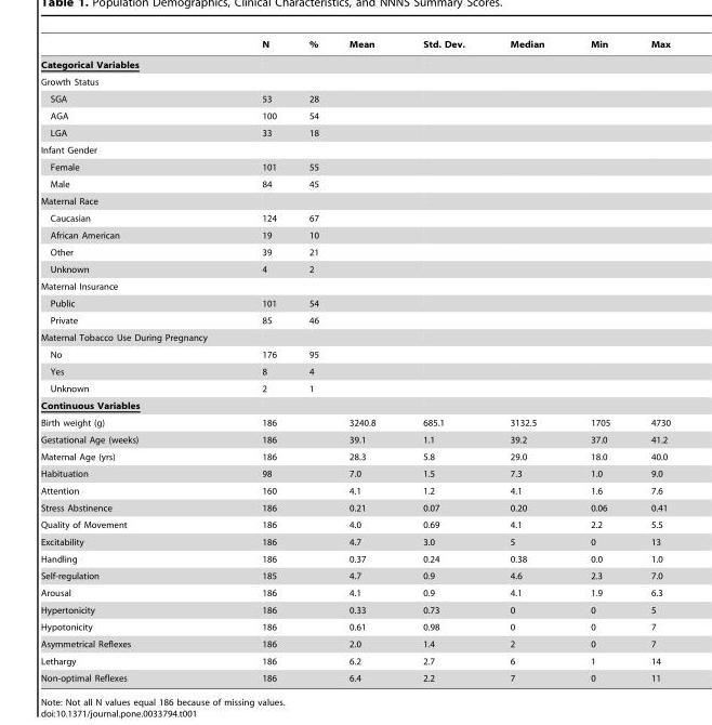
<table><thead><tr><td></td><td>N</td><td>%</td><td>Mean</td><td>Std. Dev.</td><td>Median</td><td>Min</td><td>Max</td></tr></thead><tbody><tr><td colspan="8">Categorical Variables</td></tr><tr><td colspan="8">Growth Status</td></tr><tr><td>SGA</td><td>53</td><td>28</td><td></td><td></td><td></td><td></td><td></td></tr><tr><td>AGA</td><td>100</td><td>54</td><td></td><td></td><td></td><td></td><td></td></tr><tr><td>LGA</td><td>33</td><td>18</td><td></td><td></td><td></td><td></td><td></td></tr><tr><td colspan="8">Infant Gender</td></tr><tr><td>Female</td><td>101</td><td>55</td><td></td><td></td><td></td><td></td><td></td></tr><tr><td>Male</td><td>84</td><td>45</td><td></td><td></td><td></td><td></td><td></td></tr><tr><td colspan="8">Maternal Race</td></tr><tr><td>Caucasian</td><td>124</td><td>67</td><td></td><td></td><td></td><td></td><td></td></tr><tr><td>African American</td><td>19</td><td>10</td><td></td><td></td><td></td><td></td><td></td></tr><tr><td>Other</td><td>39</td><td>21</td><td></td><td></td><td></td><td></td><td></td></tr><tr><td>Unknown</td><td>4</td><td>2</td><td></td><td></td><td></td><td></td><td></td></tr><tr><td colspan="8">Maternal Insurance</td></tr><tr><td>Public</td><td>101</td><td>54</td><td></td><td></td><td></td><td></td><td></td></tr><tr><td>Private</td><td>85</td><td>46</td><td></td><td></td><td></td><td></td><td></td></tr><tr><td colspan="8">Maternal Tobacco Use During Pregnancy</td></tr><tr><td>No</td><td>176</td><td>95</td><td></td><td></td><td></td><td></td><td></td></tr><tr><td>Yes</td><td>8</td><td>4</td><td></td><td></td><td></td><td></td><td></td></tr><tr><td>Unknown</td><td>2</td><td>1</td><td></td><td></td><td></td><td></td><td></td></tr><tr><td colspan="8">Continuous Variables</td></tr><tr><td>Birth weight (g)</td><td>186</td><td></td><td>3240.8</td><td>685.1</td><td>3132.5</td><td>1705</td><td>4730</td></tr><tr><td>Gestational Age (weeks)</td><td>186</td><td></td><td>39.1</td><td>1.1</td><td>39.2</td><td>37.0</td><td>41.2</td></tr><tr><td>Maternal Age (yrs)</td><td>186</td><td></td><td>28.3</td><td>5.8</td><td>29.0</td><td>18.0</td><td>40.0</td></tr><tr><td>Habituation</td><td>98</td><td></td><td>7.0</td><td>1.5</td><td>7.3</td><td>1.0</td><td>9.0</td></tr><tr><td>Attention</td><td>160</td><td></td><td>4.1</td><td>1.2</td><td>4.1</td><td>1.6</td><td>7.6</td></tr><tr><td>Stress Abstinence</td><td>186</td><td></td><td>0.21</td><td>0.07</td><td>0.20</td><td>0.06</td><td>0.41</td></tr><tr><td>Quality of Movement</td><td>186</td><td></td><td>4.0</td><td>0.69</td><td>4.1</td><td>2.2</td><td>5.5</td></tr><tr><td>Excitability</td><td>186</td><td></td><td>4.7</td><td>3.0</td><td>5</td><td>0</td><td>13</td></tr><tr><td>Handling</td><td>186</td><td></td><td>0.37</td><td>0.24</td><td>0.38</td><td>0.0</td><td>1.0</td></tr><tr><td>Self-regulation</td><td>185</td><td></td><td>4.7</td><td>0.9</td><td>4.6</td><td>2.3</td><td>7.0</td></tr><tr><td>Arousal</td><td>186</td><td></td><td>4.1</td><td>0.9</td><td>4.1</td><td>1.9</td><td>6.3</td></tr><tr><td>Hypertonicity</td><td>186</td><td></td><td>0.33</td><td>0.73</td><td>0</td><td>0</td><td>5</td></tr><tr><td>Hypotonicity</td><td>186</td><td></td><td>0.61</td><td>0.98</td><td>0</td><td>0</td><td>7</td></tr><tr><td>Asymmetrical Reflexes</td><td>186</td><td></td><td>2.0</td><td>1.4</td><td>2</td><td>0</td><td>7</td></tr><tr><td>Lethargy</td><td>186</td><td></td><td>6.2</td><td>2.7</td><td>6</td><td>1</td><td>14</td></tr><tr><td>Non-optimal Reflexes</td><td>186</td><td></td><td>6.4</td><td>2.2</td><td>7</td><td>0</td><td>11</td></tr></tbody></table>